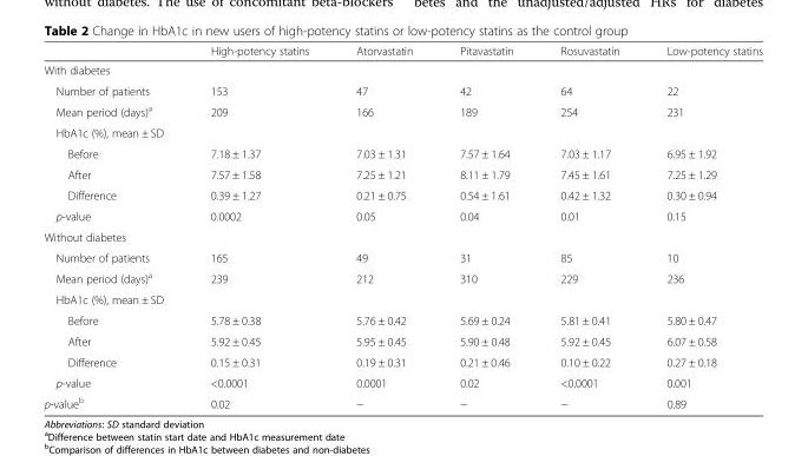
<table><thead><tr><td></td><td>High-potency statins</td><td>Atorvastatin</td><td>Pitavastatin</td><td>Rosuvastatin</td><td>Low-potency statins</td></tr></thead><tbody><tr><td colspan="6">With diabetes</td></tr><tr><td>Number of patients</td><td>153</td><td>47</td><td>42</td><td>64</td><td>22</td></tr><tr><td>Mean period (days)<sup>a</sup></td><td>209</td><td>166</td><td>189</td><td>254</td><td>231</td></tr><tr><td colspan="6">HbA1c (%), mean ± SD</td></tr><tr><td>Before</td><td>7.18 ± 1.37</td><td>7.03 ± 1.31</td><td>7.57 ± 1.64</td><td>7.03 ± 1.17</td><td>6.95 ± 1.92</td></tr><tr><td>After</td><td>7.57 ± 1.58</td><td>7.25 ± 1.21</td><td>8.11 ± 1.79</td><td>7.45 ± 1.61</td><td>7.25 ± 1.29</td></tr><tr><td>Difference</td><td>0.39 ± 1.27</td><td>0.21 ± 0.75</td><td>0.54 ± 1.61</td><td>0.42 ± 1.32</td><td>0.30 ± 0.94</td></tr><tr><td>p-value</td><td>0.0002</td><td>0.05</td><td>0.04</td><td>0.01</td><td>0.15</td></tr><tr><td colspan="6">Without diabetes</td></tr><tr><td>Number of patients</td><td>165</td><td>49</td><td>31</td><td>85</td><td>10</td></tr><tr><td>Mean period (days)<sup>a</sup></td><td>239</td><td>212</td><td>310</td><td>229</td><td>236</td></tr><tr><td colspan="6">HbA1c (%), mean ± SD</td></tr><tr><td>Before</td><td>5.78 ± 0.38</td><td>5.76 ± 0.42</td><td>5.69 ± 0.24</td><td>5.81 ± 0.41</td><td>5.80 ± 0.47</td></tr><tr><td>After</td><td>5.92 ± 0.45</td><td>5.95 ± 0.45</td><td>5.90 ± 0.48</td><td>5.92 ± 0.45</td><td>6.07 ± 0.58</td></tr><tr><td>Difference</td><td>0.15 ± 0.31</td><td>0.19 ± 0.31</td><td>0.21 ± 0.46</td><td>0.10 ± 0.22</td><td>0.27 ± 0.18</td></tr><tr><td>p-value</td><td>&lt;0.0001</td><td>0.0001</td><td>0.02</td><td>&lt;0.0001</td><td>0.001</td></tr><tr><td>p-value<sup>b</sup></td><td>0.02</td><td>−</td><td>−</td><td>−</td><td>0.89</td></tr></tbody></table>